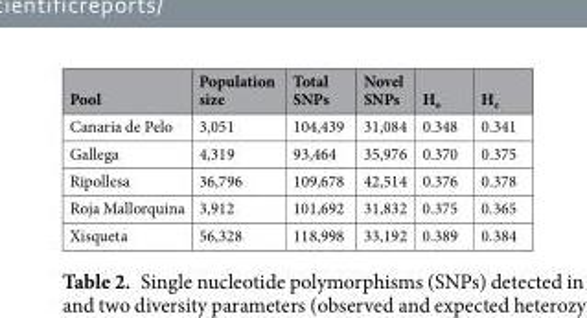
<table><thead><tr><td>Pool</td><td>Population size</td><td>Total SNPs</td><td>Novel SNPs</td><td>H<sub>o</sub></td><td>H<sub>e</sub></td></tr></thead><tbody><tr><td>Canaria de Pelo</td><td>3,051</td><td>104,439</td><td>31,084</td><td>0.348</td><td>0.341</td></tr><tr><td>Gallega</td><td>4,319</td><td>93,464</td><td>35,976</td><td>0.370</td><td>0.375</td></tr><tr><td>Ripollesa</td><td>36,796</td><td>109,678</td><td>42,514</td><td>0.376</td><td>0.378</td></tr><tr><td>Roja Mallorquina</td><td>3,912</td><td>101,692</td><td>31,832</td><td>0.375</td><td>0.365</td></tr><tr><td>Xisqueta</td><td>56,328</td><td>118,998</td><td>33,192</td><td>0.389</td><td>0.384</td></tr></tbody></table>